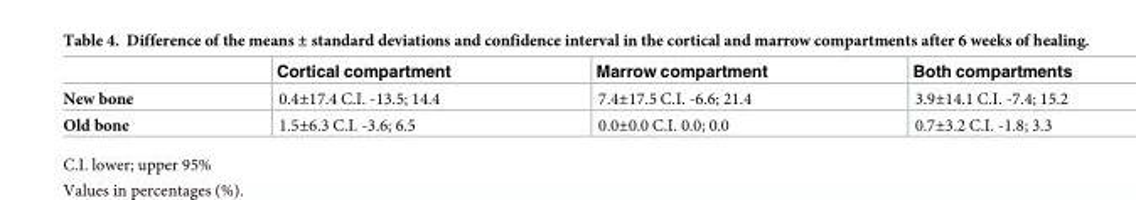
<table><thead><tr><td></td><td>Cortical compartment</td><td>Marrow compartment</td><td>Both compartments</td></tr></thead><tbody><tr><td>New bone</td><td>0.4±17.4 C.I. -13.5; 14.4</td><td>7.4±17.5 C.I. -6.6; 21.4</td><td>3.9±14.1 C.I. -7.4; 15.2</td></tr><tr><td>Old bone</td><td>1.5±6.3 C.I. -3.6; 6.5</td><td>0.0±0.0 C.I. 0.0; 0.0</td><td>0.7±3.2 C.I. -1.8; 3.3</td></tr></tbody></table>